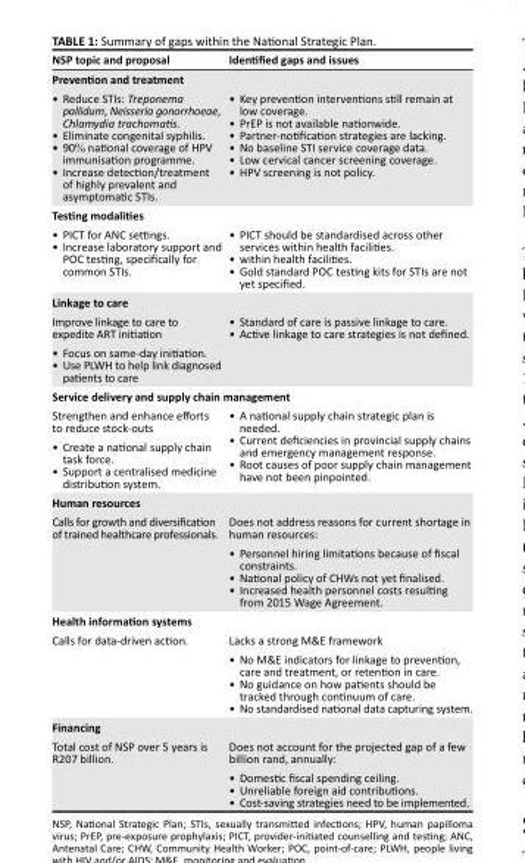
<table><thead><tr><td>NSP topic and proposal</td><td>Identified gaps and issues</td></tr></thead><tbody><tr><td colspan="2">Prevention and treatment</td></tr><tr><td>• Reduce STIs: Treponema pallidum, Neisseria gonorrhoeae, Chlamydia trachomatis. • Eliminate congenital syphilis. • 90% national coverage of HPV immunisation programme. • Increase detection/treatment of highly prevalent and asymptomatic STIs.</td><td>• Key prevention interventions still remain at low coverage. • PrEP is not available nationwide. • Partner-notification strategies are lacking. • No baseline STI service coverage data. • Low cervical cancer screening coverage. • HPV screening is not policy.</td></tr><tr><td colspan="2">Testing modalities</td></tr><tr><td>• PICT for ANC settings. • Increase laboratory support and POC testing, specifically for common STIs.</td><td>• PICT should be standardised across other services within health facilities. • within health facilities. • Gold standard POC testing kits for STIs are not yet specified.</td></tr><tr><td colspan="2">Linkage to care</td></tr><tr><td>Improve linkage to care to expedite ART initiation • Focus on same-day initiation. • Use PLWH to help link diagnosed patients to care</td><td>• Standard of care is passive linkage to care. • Active linkage to care strategies is not defined.</td></tr><tr><td colspan="2">Service delivery and supply chain management</td></tr><tr><td>Strengthen and enhance efforts to reduce stock-outs • Create a national supply chain task force. • Support a centralised medicine distribution system.</td><td>• A national supply chain strategic plan is needed. • Current deficiencies in provincial supply chains and emergency management response. • Root causes of poor supply chain management have not been pinpointed.</td></tr><tr><td colspan="2">Human resources</td></tr><tr><td>Calls for growth and diversification of trained healthcare professionals.</td><td>Does not address reasons for current shortage in human resources: • Personnel hiring limitations because of fiscal constraints. • National policy of CHWs not yet finalised. • Increased health personnel costs resulting from 2015 Wage Agreement.</td></tr><tr><td colspan="2">Health information systems</td></tr><tr><td>Calls for data-driven action.</td><td>Lacks a strong M&amp;E framework • No M&amp;E indicators for linkage to prevention, care and treatment, or retention in care. • No guidance on how patients should be tracked through continuum of care. • No standardised national data capturing system.</td></tr><tr><td colspan="2">Financing</td></tr><tr><td>Total cost of NSP over 5 years is R207 billion.</td><td>Does not account for the projected gap of a few billion rand, annually: • Domestic fiscal spending ceiling. • Unreliable foreign aid contributions. • Cost-saving strategies need to be implemented.</td></tr></tbody></table>